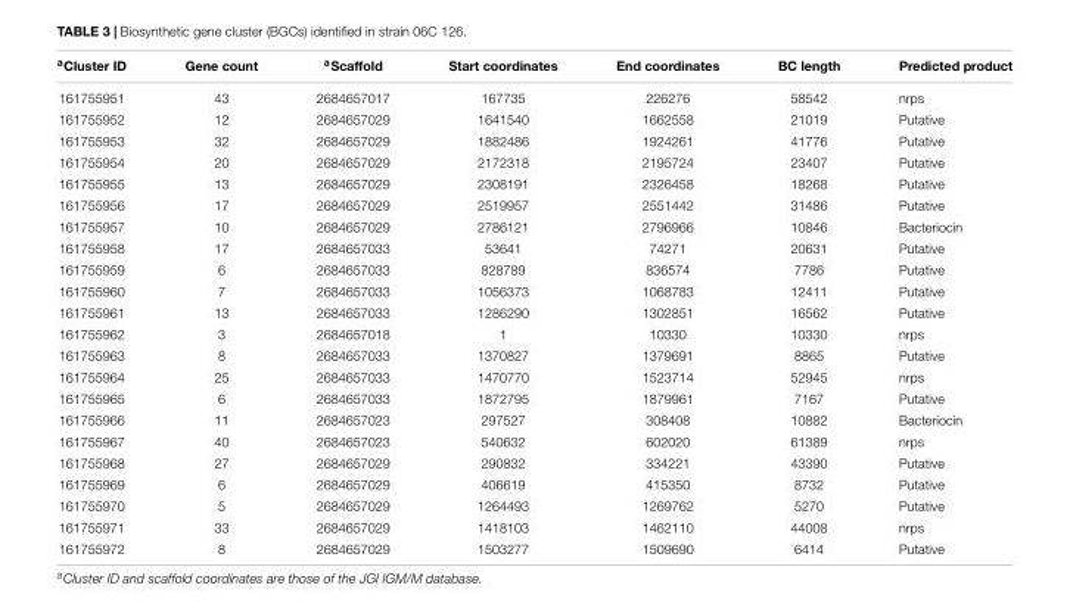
<table><thead><tr><td><sup>a</sup>Cluster ID</td><td>Gene count</td><td><sup>a</sup>Scaffold</td><td>Start coordinates</td><td>End coordinates</td><td>BC length</td><td>Predicted product</td></tr></thead><tbody><tr><td>161755951</td><td>43</td><td>2684657017</td><td>167735</td><td>226276</td><td>58542</td><td>nrps</td></tr><tr><td>161755952</td><td>12</td><td>2684657029</td><td>1641540</td><td>1662558</td><td>21019</td><td>Putative</td></tr><tr><td>161755953</td><td>32</td><td>2684657029</td><td>1882486</td><td>1924261</td><td>41776</td><td>Putative</td></tr><tr><td>161755954</td><td>20</td><td>2684657029</td><td>2172318</td><td>2195724</td><td>23407</td><td>Putative</td></tr><tr><td>161755955</td><td>13</td><td>2684657029</td><td>2308191</td><td>2326458</td><td>18268</td><td>Putative</td></tr><tr><td>161755956</td><td>17</td><td>2684657029</td><td>2519957</td><td>2551442</td><td>31486</td><td>Putative</td></tr><tr><td>161755957</td><td>10</td><td>2684657029</td><td>2786121</td><td>2796966</td><td>10846</td><td>Bacteriocin</td></tr><tr><td>161755958</td><td>17</td><td>2684657033</td><td>53641</td><td>74271</td><td>20631</td><td>Putative</td></tr><tr><td>161755959</td><td>6</td><td>2684657033</td><td>828789</td><td>836574</td><td>7786</td><td>Putative</td></tr><tr><td>161755960</td><td>7</td><td>2684657033</td><td>1056373</td><td>1068783</td><td>12411</td><td>Putative</td></tr><tr><td>161755961</td><td>13</td><td>2684657033</td><td>1286290</td><td>1302851</td><td>16562</td><td>Putative</td></tr><tr><td>161755962</td><td>3</td><td>2684657018</td><td>1</td><td>10330</td><td>10330</td><td>nrps</td></tr><tr><td>161755963</td><td>8</td><td>2684657033</td><td>1370827</td><td>1379691</td><td>8865</td><td>Putative</td></tr><tr><td>161755964</td><td>25</td><td>2684657033</td><td>1470770</td><td>1523714</td><td>52945</td><td>nrps</td></tr><tr><td>161755965</td><td>6</td><td>2684657033</td><td>1872795</td><td>1879961</td><td>7167</td><td>Putative</td></tr><tr><td>161755966</td><td>11</td><td>2684657023</td><td>297527</td><td>308408</td><td>10882</td><td>Bacteriocin</td></tr><tr><td>161755967</td><td>40</td><td>2684657023</td><td>540632</td><td>602020</td><td>61389</td><td>nrps</td></tr><tr><td>161755968</td><td>27</td><td>2684657029</td><td>290832</td><td>334221</td><td>43390</td><td>Putative</td></tr><tr><td>161755969</td><td>6</td><td>2684657029</td><td>406619</td><td>415350</td><td>8732</td><td>Putative</td></tr><tr><td>161755970</td><td>5</td><td>2684657029</td><td>1264493</td><td>1269762</td><td>5270</td><td>Putative</td></tr><tr><td>161755971</td><td>33</td><td>2684657029</td><td>1418103</td><td>1462110</td><td>44008</td><td>nrps</td></tr><tr><td>161755972</td><td>8</td><td>2684657029</td><td>1503277</td><td>1509690</td><td>6414</td><td>Putative</td></tr></tbody></table>